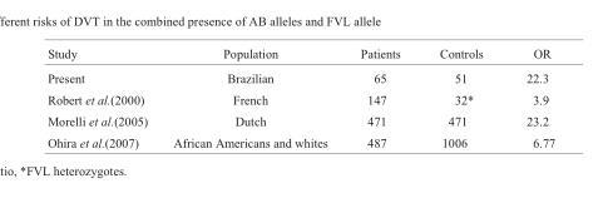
<table><thead><tr><td>Study</td><td>Population</td><td>Patients</td><td>Controls</td><td>OR</td></tr></thead><tbody><tr><td>Present</td><td>Brazilian</td><td>65</td><td>51</td><td>22.3</td></tr><tr><td>Robert et al.(2000)</td><td>French</td><td>147</td><td>32*</td><td>3.9</td></tr><tr><td>Morelli et al.(2005)</td><td>Dutch</td><td>471</td><td>471</td><td>23.2</td></tr><tr><td>Ohira et al.(2007)</td><td>African Americans and whites</td><td>487</td><td>1006</td><td>6.77</td></tr></tbody></table>